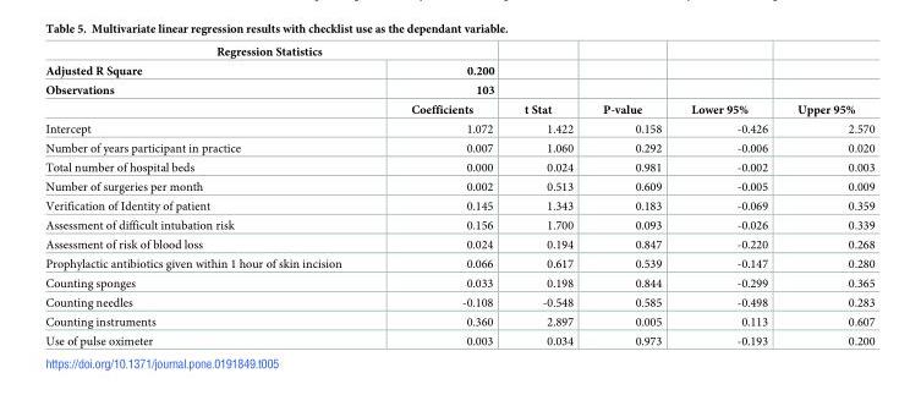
<table><thead><tr><td colspan="2">Regression Statistics</td><td rowspan="4">t Stat</td><td rowspan="4">P-value</td><td rowspan="4">Lower 95%</td><td rowspan="4">Upper 95%</td></tr><tr><td rowspan="3">Adjusted R Square Observations</td><td rowspan="3">0.200 103 Coefficients</td></tr><tr></tr><tr></tr></thead><tbody><tr><td>Intercept</td><td>1.072</td><td>1.422</td><td>0.158</td><td>-0.426</td><td>2.570</td></tr><tr><td>Number of years participant in practice</td><td>0.007</td><td>1.060</td><td>0.292</td><td>-0.006</td><td>0.020</td></tr><tr><td>Total number of hospital beds</td><td>0.000</td><td>0.024</td><td>0.981</td><td>-0.002</td><td>0.003</td></tr><tr><td>Number of surgeries per month</td><td>0.002</td><td>0.513</td><td>0.609</td><td>-0.005</td><td>0.009</td></tr><tr><td>Verification of Identity of patient</td><td>0.145</td><td>1.343</td><td>0.183</td><td>-0.069</td><td>0.359</td></tr><tr><td>Assessment of difficult intubation risk</td><td>0.156</td><td>1.700</td><td>0.093</td><td>-0.026</td><td>0.339</td></tr><tr><td>Assessment of risk of blood loss</td><td>0.024</td><td>0.194</td><td>0.847</td><td>-0.220</td><td>0.268</td></tr><tr><td>Prophylactic antibiotics given within 1 hour of skin incision</td><td>0.066</td><td>0.617</td><td>0.539</td><td>-0.147</td><td>0.280</td></tr><tr><td>Counting sponges</td><td>0.033</td><td>0.198</td><td>0.844</td><td>-0.299</td><td>0.365</td></tr><tr><td>Counting needles</td><td>-0.108</td><td>-0.548</td><td>0.585</td><td>-0.498</td><td>0.283</td></tr><tr><td>Counting instruments</td><td>0.360</td><td>2.897</td><td>0.005</td><td>0.113</td><td>0.607</td></tr><tr><td>Use of pulse oximeter</td><td>0.003</td><td>0.034</td><td>0.973</td><td>-0.193</td><td>0.200</td></tr></tbody></table>